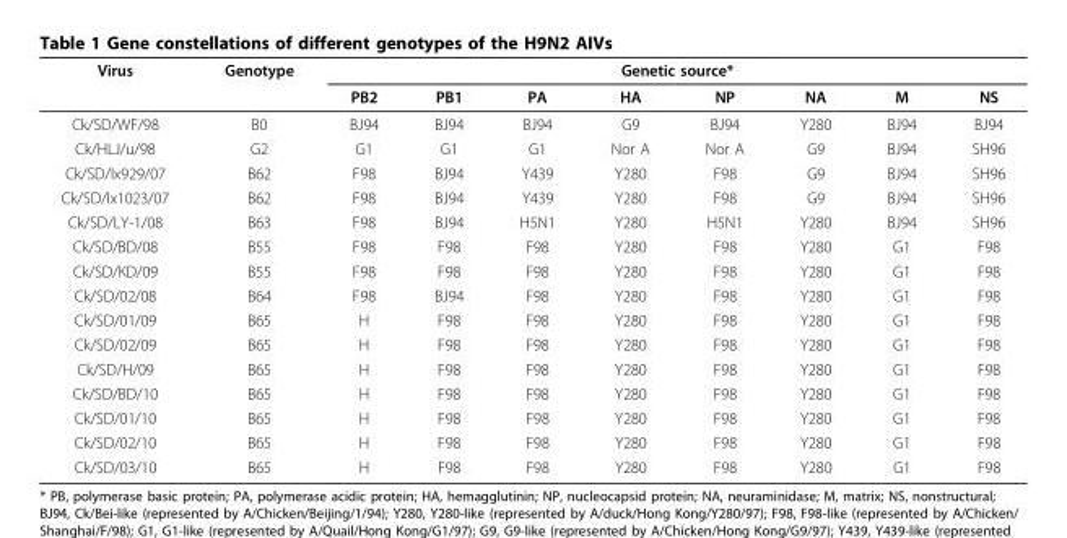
<table><tbody><tr><td rowspan="2">Virus</td><td>Genotype</td><td colspan="8">Genetic source*</td></tr><tr><td></td><td>PB2</td><td>PB1</td><td>PA</td><td>HA</td><td>NP</td><td>NA</td><td>M</td><td>NS</td></tr><tr><td>Ck/SD/WF/98</td><td>B0</td><td>BJ94</td><td>BJ94</td><td>BJ94</td><td>G9</td><td>BJ94</td><td>Y280</td><td>BJ94</td><td>BJ94</td></tr><tr><td>Ck/HLJ/u/98</td><td>G2</td><td>G1</td><td>G1</td><td>G1</td><td>Nor A</td><td>Nor A</td><td>G9</td><td>BJ94</td><td>SH96</td></tr><tr><td>Ck/SD/lx929/07</td><td>B62</td><td>F98</td><td>BJ94</td><td>Y439</td><td>Y280</td><td>F98</td><td>G9</td><td>BJ94</td><td>SH96</td></tr><tr><td>Ck/SD/lx1023/07</td><td>B62</td><td>F98</td><td>BJ94</td><td>Y439</td><td>Y280</td><td>F98</td><td>G9</td><td>BJ94</td><td>SH96</td></tr><tr><td>Ck/SD/LY-1/08</td><td>B63</td><td>F98</td><td>BJ94</td><td>H5N1</td><td>Y280</td><td>H5N1</td><td>Y280</td><td>BJ94</td><td>SH96</td></tr><tr><td>Ck/SD/BD/08</td><td>B55</td><td>F98</td><td>F98</td><td>F98</td><td>Y280</td><td>F98</td><td>Y280</td><td>G1</td><td>F98</td></tr><tr><td>Ck/SD/KD/09</td><td>B55</td><td>F98</td><td>F98</td><td>F98</td><td>Y280</td><td>F98</td><td>Y280</td><td>G1</td><td>F98</td></tr><tr><td>Ck/SD/02/08</td><td>B64</td><td>F98</td><td>BJ94</td><td>F98</td><td>Y280</td><td>F98</td><td>Y280</td><td>G1</td><td>F98</td></tr><tr><td>Ck/SD/01/09</td><td>B65</td><td>H</td><td>F98</td><td>F98</td><td>Y280</td><td>F98</td><td>Y280</td><td>G1</td><td>F98</td></tr><tr><td>Ck/SD/02/09</td><td>B65</td><td>H</td><td>F98</td><td>F98</td><td>Y280</td><td>F98</td><td>Y280</td><td>G1</td><td>F98</td></tr><tr><td>Ck/SD/H/09</td><td>B65</td><td>H</td><td>F98</td><td>F98</td><td>Y280</td><td>F98</td><td>Y280</td><td>G1</td><td>F98</td></tr><tr><td>Ck/SD/BD/10</td><td>B65</td><td>H</td><td>F98</td><td>F98</td><td>Y280</td><td>F98</td><td>Y280</td><td>G1</td><td>F98</td></tr><tr><td>Ck/SD/01/10</td><td>B65</td><td>H</td><td>F98</td><td>F98</td><td>Y280</td><td>F98</td><td>Y280</td><td>G1</td><td>F98</td></tr><tr><td>Ck/SD/02/10</td><td>B65</td><td>H</td><td>F98</td><td>F98</td><td>Y280</td><td>F98</td><td>Y280</td><td>G1</td><td>F98</td></tr><tr><td>Ck/SD/03/10</td><td>B65</td><td>H</td><td>F98</td><td>F98</td><td>Y280</td><td>F98</td><td>Y280</td><td>G1</td><td>F98</td></tr></tbody></table>